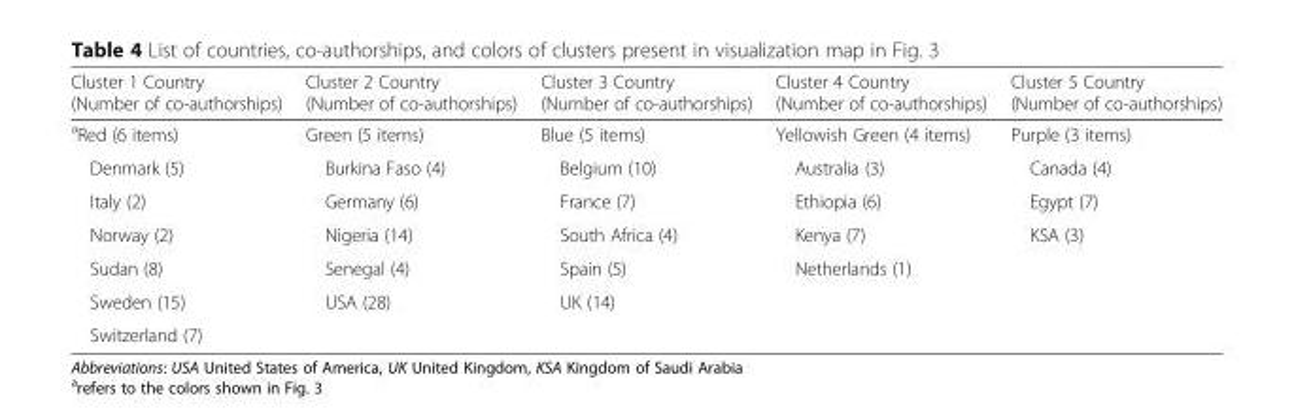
<table><thead><tr><td>Cluster 1 Country (Number of co-authorships)</td><td>Cluster 2 Country (Number of co-authorships)</td><td>Cluster 3 Country (Number of co-authorships)</td><td>Cluster 4 Country (Number of co-authorships)</td><td>Cluster 5 Country (Number of co-authorships)</td></tr></thead><tbody><tr><td><sup>a</sup>Red (6 items)</td><td>Green (5 items)</td><td>Blue (5 items)</td><td>Yellowish Green (4 items)</td><td>Purple (3 items)</td></tr><tr><td>Denmark (5)</td><td>Burkina Faso (4)</td><td>Belgium (10)</td><td>Australia (3)</td><td>Canada (4)</td></tr><tr><td>Italy (2)</td><td>Germany (6)</td><td>France (7)</td><td>Ethiopia (6)</td><td>Egypt (7)</td></tr><tr><td>Norway (2)</td><td>Nigeria (14)</td><td>South Africa (4)</td><td>Kenya (7)</td><td>KSA (3)</td></tr><tr><td>Sudan (8)</td><td>Senegal (4)</td><td>Spain (5)</td><td>Netherlands (1)</td><td></td></tr><tr><td>Sweden (15)</td><td>USA (28)</td><td>UK (14)</td><td></td><td></td></tr><tr><td>Switzerland (7)</td><td></td><td></td><td></td><td></td></tr></tbody></table>